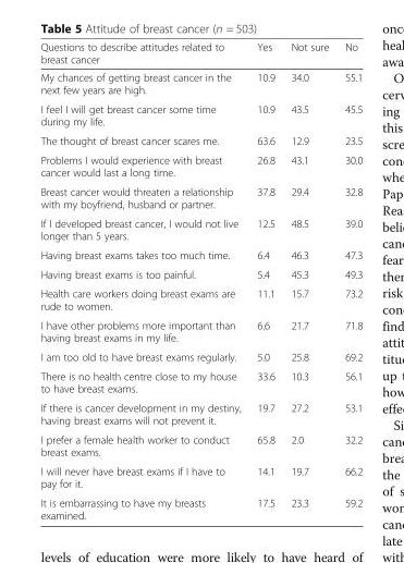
<table><thead><tr><td>Questions to describe attitudes related to breast cancer</td><td>Yes</td><td>Not sure</td><td>No</td></tr></thead><tbody><tr><td>My chances of getting breast cancer in the next few years are high.</td><td>10.9</td><td>34.0</td><td>55.1</td></tr><tr><td>I feel I will get breast cancer some time during my life.</td><td>10.9</td><td>43.5</td><td>45.5</td></tr><tr><td>The thought of breast cancer scares me.</td><td>63.6</td><td>12.9</td><td>23.5</td></tr><tr><td>Problems I would experience with breast cancer would last a long time.</td><td>26.8</td><td>43.1</td><td>30.0</td></tr><tr><td>Breast cancer would threaten a relationship with my boyfriend, husband or partner.</td><td>37.8</td><td>29.4</td><td>32.8</td></tr><tr><td>If I developed breast cancer, I would not live longer than 5 years.</td><td>12.5</td><td>48.5</td><td>39.0</td></tr><tr><td>Having breast exams takes too much time.</td><td>6.4</td><td>46.3</td><td>47.3</td></tr><tr><td>Having breast exams is too painful.</td><td>5.4</td><td>45.3</td><td>49.3</td></tr><tr><td>Health care workers doing breast exams are rude to women.</td><td>11.1</td><td>15.7</td><td>73.2</td></tr><tr><td>I have other problems more important than having breast exams in my life.</td><td>6.6</td><td>21.7</td><td>71.8</td></tr><tr><td>I am too old to have breast exams regularly.</td><td>5.0</td><td>25.8</td><td>69.2</td></tr><tr><td>There is no health centre close to my house to have breast exams.</td><td>33.6</td><td>10.3</td><td>56.1</td></tr><tr><td>If there is cancer development in my destiny, having breast exams will not prevent it.</td><td>19.7</td><td>27.2</td><td>53.1</td></tr><tr><td>I prefer a female health worker to conduct breast exams.</td><td>65.8</td><td>2.0</td><td>32.2</td></tr><tr><td>I will never have breast exams if I have to pay for it.</td><td>14.1</td><td>19.7</td><td>66.2</td></tr><tr><td>It is embarrassing to have my breasts examined.</td><td>17.5</td><td>23.3</td><td>59.2</td></tr></tbody></table>